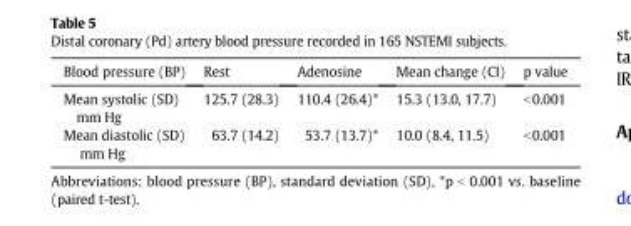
<table><thead><tr><td>Blood pressure (BP)</td><td>Rest</td><td>Adenosine</td><td>Mean change (CI)</td><td>p value</td></tr></thead><tbody><tr><td>Mean systolic (SD) mm Hg</td><td>125.7 (28.3)</td><td>110.4 (26.4)*</td><td>15.3 (13.0, 17.7)</td><td>&lt;0.001</td></tr><tr><td>Mean diastolic (SD) mm Hg</td><td>63.7 (14.2)</td><td>53.7 (13.7)*</td><td>10.0 (8.4, 11.5)</td><td>&lt;0.001</td></tr></tbody></table>